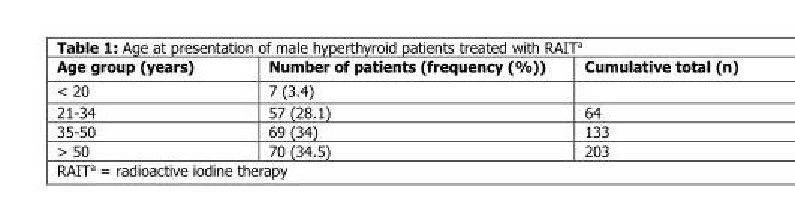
<table><thead><tr><td>Age group (years)</td><td>Number of patients (frequency (%))</td><td>Cumulative total (n)</td></tr></thead><tbody><tr><td>&lt; 20</td><td>7 (3.4)</td><td></td></tr><tr><td>21-34</td><td>57 (28.1)</td><td>64</td></tr><tr><td>35-50</td><td>69 (34)</td><td>133</td></tr><tr><td>&gt; 50</td><td>70 (34.5)</td><td>203</td></tr></tbody></table>